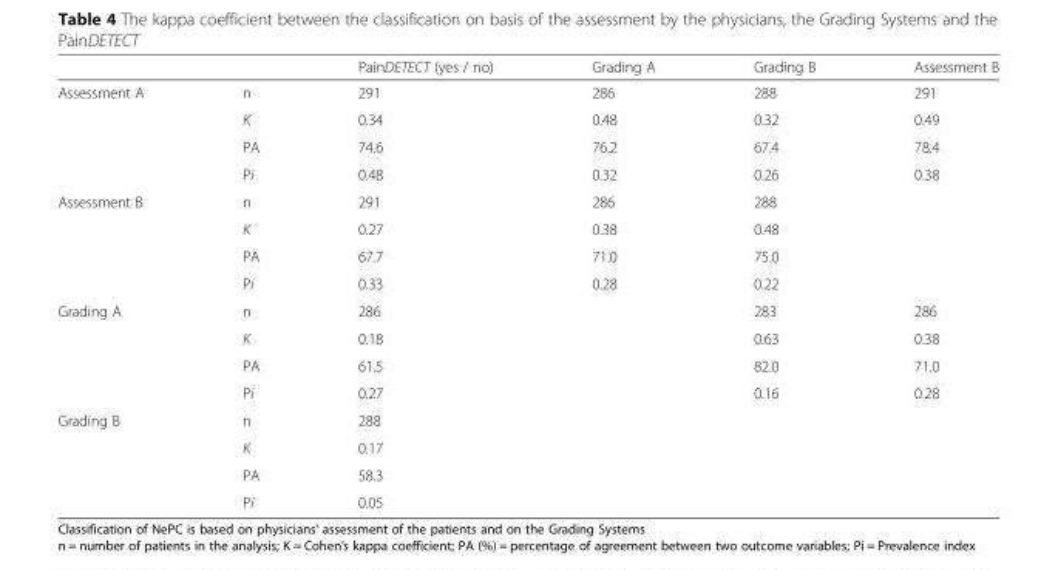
<table><thead><tr><td></td><td></td><td>PainDETECT (yes / no)</td><td>Grading A</td><td>Grading B</td><td>Assessment B</td></tr></thead><tbody><tr><td rowspan="4">Assessment A</td><td>n</td><td>291</td><td>286</td><td>288</td><td>291</td></tr><tr><td>K</td><td>0.34</td><td>0.48</td><td>0.32</td><td>0.49</td></tr><tr><td>PA</td><td>74.6</td><td>76.2</td><td>67.4</td><td>78.4</td></tr><tr><td>Pi</td><td>0.48</td><td>0.32</td><td>0.26</td><td>0.38</td></tr><tr><td rowspan="4">Assessment B</td><td>n</td><td>291</td><td>286</td><td>288</td><td></td></tr><tr><td>K</td><td>0.27</td><td>0.38</td><td>0.48</td><td></td></tr><tr><td>PA</td><td>67.7</td><td>71.0</td><td>75.0</td><td></td></tr><tr><td>Pi</td><td>0.33</td><td>0.28</td><td>0.22</td><td></td></tr><tr><td rowspan="4">Grading A</td><td>n</td><td>286</td><td></td><td>283</td><td>286</td></tr><tr><td>K</td><td>0.18</td><td></td><td>0.63</td><td>0.38</td></tr><tr><td>PA</td><td>61.5</td><td></td><td>82.0</td><td>71.0</td></tr><tr><td>Pi</td><td>0.27</td><td></td><td>0.16</td><td>0.28</td></tr><tr><td rowspan="4">Grading B</td><td>n</td><td>288</td><td></td><td></td><td></td></tr><tr><td>K</td><td>0.17</td><td></td><td></td><td></td></tr><tr><td>PA</td><td>58.3</td><td></td><td></td><td></td></tr><tr><td>Pi</td><td>0.05</td><td></td><td></td><td></td></tr></tbody></table>